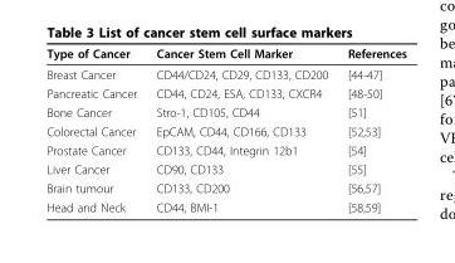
<table><thead><tr><td>Type of Cancer</td><td>Cancer Stem Cell Marker</td><td>References</td></tr></thead><tbody><tr><td>Breast Cancer</td><td>CD44/CD24, CD29, CD133, CD200</td><td>[44-47]</td></tr><tr><td>Pancreatic Cancer</td><td>CD44, CD24, ESA, CD133, CXCR4</td><td>[48-50]</td></tr><tr><td>Bone Cancer</td><td>Stro-1, CD105, CD44</td><td>[51]</td></tr><tr><td>Colorectal Cancer</td><td>EpCAM, CD44, CD166, CD133</td><td>[52,53]</td></tr><tr><td>Prostate Cancer</td><td>CD133, CD44, Integrin 12b1</td><td>[54]</td></tr><tr><td>Liver Cancer</td><td>CD90, CD133</td><td>[55]</td></tr><tr><td>Brain tumour</td><td>CD133, CD200</td><td>[56,57]</td></tr><tr><td>Head and Neck</td><td>CD44, BMI-1</td><td>[58,59]</td></tr></tbody></table>